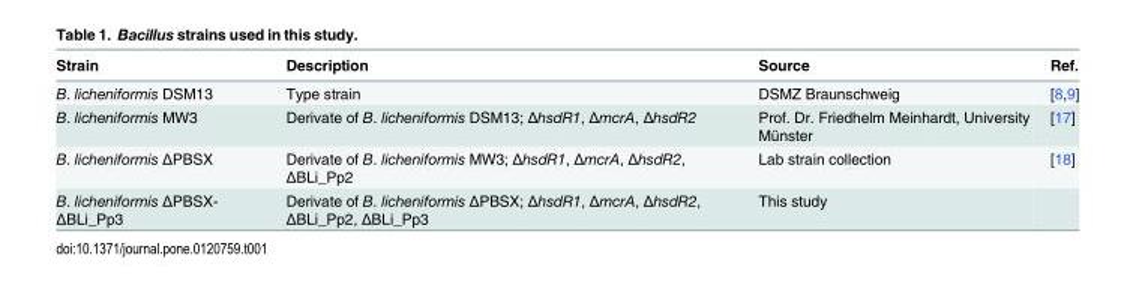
<table><thead><tr><td>Strain</td><td>Description</td><td>Source</td><td>Ref.</td></tr></thead><tbody><tr><td>B. licheniformis DSM13</td><td>Type strain</td><td>DSMZ Braunschweig</td><td>[8,9]</td></tr><tr><td>B. licheniformis MW3</td><td>Derivate of B. licheniformis DSM13; ΔhsdR1, ΔmcrA, ΔhsdR2</td><td>Prof. Dr. Friedhelm Meinhardt, University Münster</td><td>[17]</td></tr><tr><td>B. licheniformis ΔPBSX</td><td>Derivate of B. licheniformis MW3; ΔhsdR1, ΔmcrA, ΔhsdR2, ΔBLi_Pp2</td><td>Lab strain collection</td><td>[18]</td></tr><tr><td>B. licheniformis ΔPBSX- ΔBLi_Pp3</td><td>Derivate of B. licheniformis ΔPBSX; ΔhsdR1, ΔmcrA, ΔhsdR2, ΔBLi_Pp2, ΔBLi_Pp3</td><td>This study</td><td></td></tr></tbody></table>